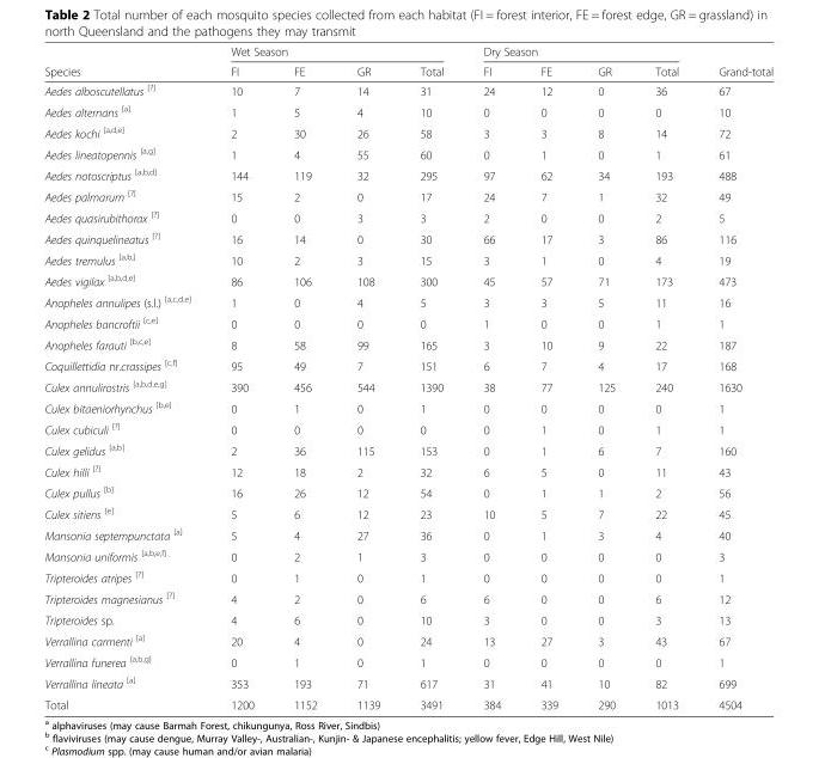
<table><thead><tr><td rowspan="2">Species</td><td colspan="4">Wet Season</td><td colspan="4">Dry Season</td><td rowspan="2">Grand-total</td></tr><tr><td>FI</td><td>FE</td><td>GR</td><td>Total</td><td>FI</td><td>FE</td><td>GR</td><td>Total</td></tr></thead><tbody><tr><td>Aedes alboscutellatus <sup>[?]</sup></td><td>10</td><td>7</td><td>14</td><td>31</td><td>24</td><td>12</td><td>0</td><td>36</td><td>67</td></tr><tr><td>Aedes alternans <sup>[a]</sup></td><td>1</td><td>5</td><td>4</td><td>10</td><td>0</td><td>0</td><td>0</td><td>0</td><td>10</td></tr><tr><td>Aedes kochi <sup>[a,d,e]</sup></td><td>2</td><td>30</td><td>26</td><td>58</td><td>3</td><td>3</td><td>8</td><td>14</td><td>72</td></tr><tr><td>Aedes lineatopennis <sup>[a,g]</sup></td><td>1</td><td>4</td><td>55</td><td>60</td><td>0</td><td>1</td><td>0</td><td>1</td><td>61</td></tr><tr><td>Aedes notoscriptus <sup>[a,b,d]</sup></td><td>144</td><td>119</td><td>32</td><td>295</td><td>97</td><td>62</td><td>34</td><td>193</td><td>488</td></tr><tr><td>Aedes palmarum <sup>[?]</sup></td><td>15</td><td>2</td><td>0</td><td>17</td><td>24</td><td>7</td><td>1</td><td>32</td><td>49</td></tr><tr><td>Aedes quasirubithorax <sup>[?]</sup></td><td>0</td><td>0</td><td>3</td><td>3</td><td>2</td><td>0</td><td>0</td><td>2</td><td>5</td></tr><tr><td>Aedes quinquelineatus <sup>[?]</sup></td><td>16</td><td>14</td><td>0</td><td>30</td><td>66</td><td>17</td><td>3</td><td>86</td><td>116</td></tr><tr><td>Aedes tremulus <sup>[a,b,]</sup></td><td>10</td><td>2</td><td>3</td><td>15</td><td>3</td><td>1</td><td>0</td><td>4</td><td>19</td></tr><tr><td>Aedes vigilax <sup>[a,b,d,e]</sup></td><td>86</td><td>106</td><td>108</td><td>300</td><td>45</td><td>57</td><td>71</td><td>173</td><td>473</td></tr><tr><td>Anopheles annulipes (s.l.) <sup>[a,c,d,e]</sup></td><td>1</td><td>0</td><td>4</td><td>5</td><td>3</td><td>3</td><td>5</td><td>11</td><td>16</td></tr><tr><td>Anopheles bancroftii <sup>[c,e]</sup></td><td>0</td><td>0</td><td>0</td><td>0</td><td>1</td><td>0</td><td>0</td><td>1</td><td>1</td></tr><tr><td>Anopheles farauti <sup>[b,c,e]</sup></td><td>8</td><td>58</td><td>99</td><td>165</td><td>3</td><td>10</td><td>9</td><td>22</td><td>187</td></tr><tr><td>Coquillettidia nr.crassipes <sup>[c,f]</sup></td><td>95</td><td>49</td><td>7</td><td>151</td><td>6</td><td>7</td><td>4</td><td>17</td><td>168</td></tr><tr><td>Culex annulirostris <sup>[a,b,d,e,g]</sup></td><td>390</td><td>456</td><td>544</td><td>1390</td><td>38</td><td>77</td><td>125</td><td>240</td><td>1630</td></tr><tr><td>Culex bitaeniorhynchus <sup>[b,e]</sup></td><td>0</td><td>1</td><td>0</td><td>1</td><td>0</td><td>0</td><td>0</td><td>0</td><td>1</td></tr><tr><td>Culex cubiculi <sup>[?]</sup></td><td>0</td><td>0</td><td>0</td><td>0</td><td>0</td><td>1</td><td>0</td><td>1</td><td>1</td></tr><tr><td>Culex gelidus <sup>[a,b]</sup></td><td>2</td><td>36</td><td>115</td><td>153</td><td>0</td><td>1</td><td>6</td><td>7</td><td>160</td></tr><tr><td>Culex hilli <sup>[?]</sup></td><td>12</td><td>18</td><td>2</td><td>32</td><td>6</td><td>5</td><td>0</td><td>11</td><td>43</td></tr><tr><td>Culex pullus <sup>[b]</sup></td><td>16</td><td>26</td><td>12</td><td>54</td><td>0</td><td>1</td><td>1</td><td>2</td><td>56</td></tr><tr><td>Culex sitiens <sup>[e]</sup></td><td>5</td><td>6</td><td>12</td><td>23</td><td>10</td><td>5</td><td>7</td><td>22</td><td>45</td></tr><tr><td>Mansonia septempunctata <sup>[a]</sup></td><td>5</td><td>4</td><td>27</td><td>36</td><td>0</td><td>1</td><td>3</td><td>4</td><td>40</td></tr><tr><td>Mansonia uniformis <sup>[a,b,e,f]</sup></td><td>0</td><td>2</td><td>1</td><td>3</td><td>0</td><td>0</td><td>0</td><td>0</td><td>3</td></tr><tr><td>Tripteroides atripes <sup>[?]</sup></td><td>0</td><td>1</td><td>0</td><td>1</td><td>0</td><td>0</td><td>0</td><td>0</td><td>1</td></tr><tr><td>Tripteroides magnesianus <sup>[?]</sup></td><td>4</td><td>2</td><td>0</td><td>6</td><td>6</td><td>0</td><td>0</td><td>6</td><td>12</td></tr><tr><td>Tripteroides sp.</td><td>4</td><td>6</td><td>0</td><td>10</td><td>3</td><td>0</td><td>0</td><td>3</td><td>13</td></tr><tr><td>Verrallina carmenti <sup>[a]</sup></td><td>20</td><td>4</td><td>0</td><td>24</td><td>13</td><td>27</td><td>3</td><td>43</td><td>67</td></tr><tr><td>Verrallina funerea <sup>[a,b,g]</sup></td><td>0</td><td>1</td><td>0</td><td>1</td><td>0</td><td>0</td><td>0</td><td>0</td><td>1</td></tr><tr><td>Verrallina lineata <sup>[a]</sup></td><td>353</td><td>193</td><td>71</td><td>617</td><td>31</td><td>41</td><td>10</td><td>82</td><td>699</td></tr><tr><td>Total</td><td>1200</td><td>1152</td><td>1139</td><td>3491</td><td>384</td><td>339</td><td>290</td><td>1013</td><td>4504</td></tr></tbody></table>